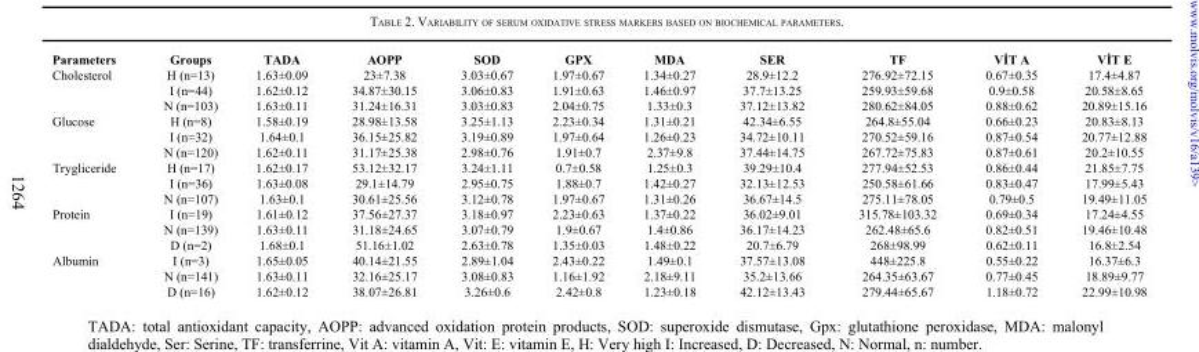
<table><thead><tr><td>Parameters</td><td>Groups</td><td>TADA</td><td>AOPP</td><td>SOD</td><td>GPX</td><td>MDA</td><td>SER</td><td>TF</td><td>VİT A</td><td>VİT E</td></tr></thead><tbody><tr><td rowspan="3">Cholesterol</td><td>H (n=13)</td><td>1.63±0.09</td><td>23±7.38</td><td>3.03±0.67</td><td>1.97±0.67</td><td>1.34±0.27</td><td>28.9±12.2</td><td>276.92±72.15</td><td>0.67±0.35</td><td>17.4±4.87</td></tr><tr><td>I (n=44)</td><td>1.62±0.12</td><td>34.87±30.15</td><td>3.06±0.83</td><td>1.91±0.63</td><td>1.46±0.97</td><td>37.7±13.25</td><td>259.93±59.68</td><td>0.9±0.58</td><td>20.58±8.65</td></tr><tr><td>N (n=103)</td><td>1.63±0.11</td><td>31.24±16.31</td><td>3.03±0.83</td><td>2.04±0.75</td><td>1.33±0.3</td><td>37.12±13.82</td><td>280.62±84.05</td><td>0.88±0.62</td><td>20.89±15.16</td></tr><tr><td rowspan="3">Glucose</td><td>H (n=8)</td><td>1.58±0.19</td><td>28.98±13.58</td><td>3.25±1.13</td><td>2.23±0.34</td><td>1.31±0.21</td><td>42.34±6.55</td><td>264.8±55.04</td><td>0.66±0.23</td><td>20.83±8.13</td></tr><tr><td>I (n=32)</td><td>1.64±0.1</td><td>36.15±25.82</td><td>3.19±0.89</td><td>1.97±0.64</td><td>1.26±0.23</td><td>34.72±10.11</td><td>270.52±59.16</td><td>0.87±0.54</td><td>20.77±12.88</td></tr><tr><td>N (n=120)</td><td>1.62±0.11</td><td>31.17±25.38</td><td>2.98±0.76</td><td>1.91±0.7</td><td>2.37±9.8</td><td>37.44±14.75</td><td>267.72±75.83</td><td>0.87±0.61</td><td>20.2±10.55</td></tr><tr><td rowspan="3">Trygliceride</td><td>H (n=17)</td><td>1.62±0.17</td><td>53.12±32.17</td><td>3.24±1.11</td><td>0.7±0.58</td><td>1.25±0.3</td><td>39.29±10.4</td><td>277.94±52.53</td><td>0.86±0.44</td><td>21.85±7.75</td></tr><tr><td>I (n=36)</td><td>1.63±0.08</td><td>29.1±14.79</td><td>2.95±0.75</td><td>1.88±0.7</td><td>1.42±0.27</td><td>32.13±12.53</td><td>250.58±61.66</td><td>0.83±0.47</td><td>17.99±5.43</td></tr><tr><td>N (n=107)</td><td>1.63±0.1</td><td>30.61±25.56</td><td>3.12±0.78</td><td>1.97±0.67</td><td>1.31±0.26</td><td>36.67±14.5</td><td>275.11±78.05</td><td>0.79±0.5</td><td>19.49±11.05</td></tr><tr><td rowspan="3">Protein</td><td>I (n=19)</td><td>1.61±0.12</td><td>37.56±27.37</td><td>3.18±0.97</td><td>2.23±0.63</td><td>1.37±0.22</td><td>36.02±9.01</td><td>315.78±103.32</td><td>0.69±0.34</td><td>17.24±4.55</td></tr><tr><td>N (n=139)</td><td>1.63±0.11</td><td>31.18±24.65</td><td>3.07±0.79</td><td>1.9±0.67</td><td>1.4±0.86</td><td>36.17±14.23</td><td>262.48±65.6</td><td>0.82±0.51</td><td>19.46±10.48</td></tr><tr><td>D (n=2)</td><td>1.68±0.1</td><td>51.16±1.02</td><td>2.63±0.78</td><td>1.35±0.03</td><td>1.48±0.22</td><td>20.7±6.79</td><td>268±98.99</td><td>0.62±0.11</td><td>16.8±2.54</td></tr><tr><td rowspan="3">Albumin</td><td>I (n=3)</td><td>1.65±0.05</td><td>40.14±21.55</td><td>2.89±1.04</td><td>2.43±0.22</td><td>1.49±0.1</td><td>37.57±13.08</td><td>448±225.8</td><td>0.55±0.22</td><td>16.37±6.3</td></tr><tr><td>N (n=141)</td><td>1.63±0.11</td><td>32.16±25.17</td><td>3.08±0.83</td><td>1.16±1.92</td><td>2.18±9.11</td><td>35.2±13.66</td><td>264.35±63.67</td><td>0.77±0.45</td><td>18.89±9.77</td></tr><tr><td>D (n=16)</td><td>1.62±0.12</td><td>38.07±26.81</td><td>3.26±0.6</td><td>2.42±0.8</td><td>1.23±0.18</td><td>42.12±13.43</td><td>279.44±65.67</td><td>1.18±0.72</td><td>22.99±10.98</td></tr></tbody></table>